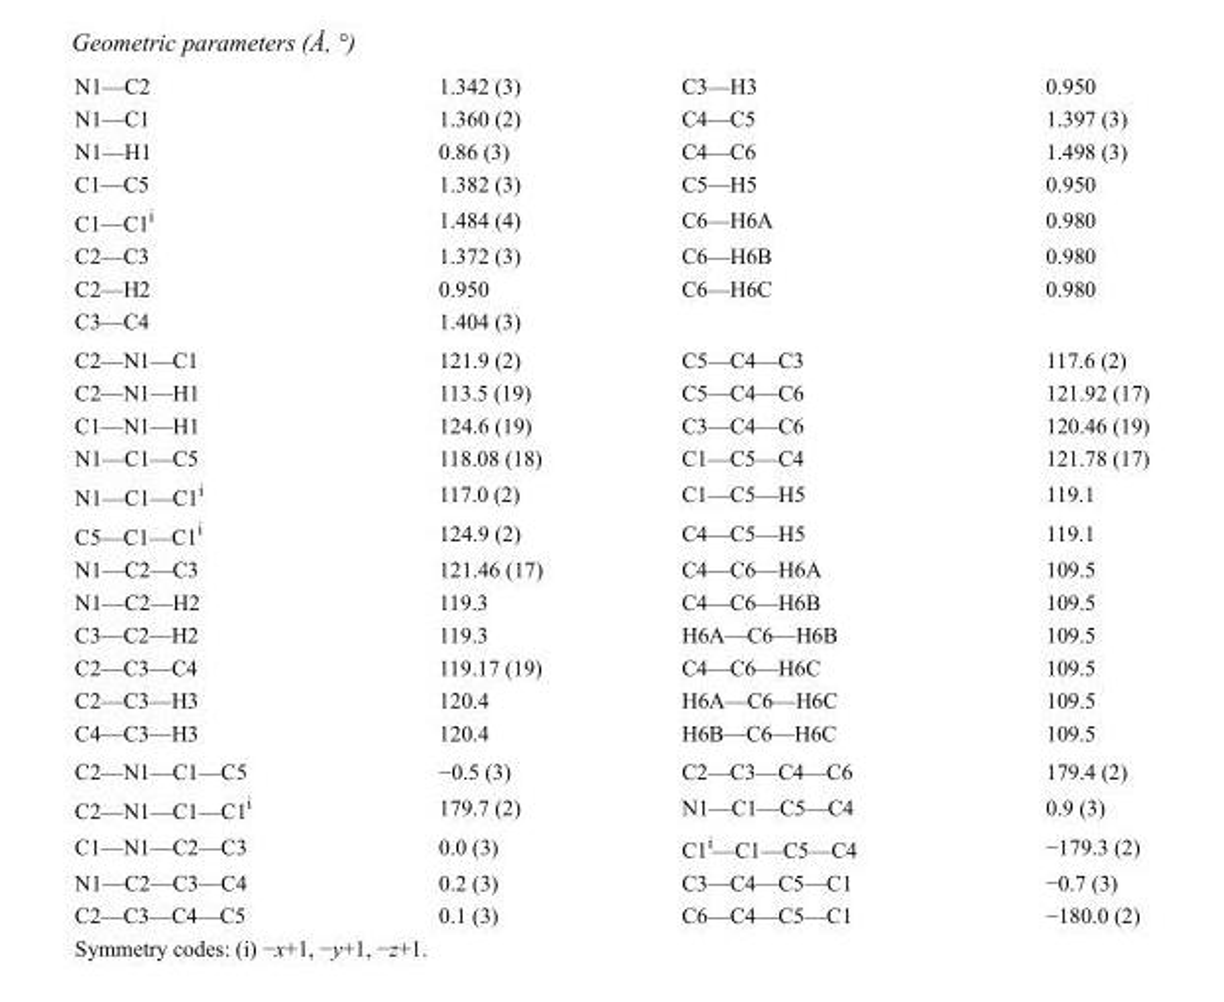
<table><tbody><tr><td>N1—C2</td><td>1.342 (3)</td><td>C3—H3</td><td>0.950</td></tr><tr><td>N1—C1</td><td>1.360 (2)</td><td>C4—C5</td><td>1.397 (3)</td></tr><tr><td>N1—H1</td><td>0.86 (3)</td><td>C4—C6</td><td>1.498 (3)</td></tr><tr><td>C1—C5</td><td>1.382 (3)</td><td>C5—H5</td><td>0.950</td></tr><tr><td>C1—C1<sup>i</sup></td><td>1.484 (4)</td><td>C6—H6A</td><td>0.980</td></tr><tr><td>C2—C3</td><td>1.372 (3)</td><td>C6—H6B</td><td>0.980</td></tr><tr><td>C2—H2</td><td>0.950</td><td>C6—H6C</td><td>0.980</td></tr><tr><td>C3—C4</td><td>1.404 (3)</td><td></td><td></td></tr><tr><td>C2—N1—C1</td><td>121.9 (2)</td><td>C5—C4—C3</td><td>117.6 (2)</td></tr><tr><td>C2—N1—H1</td><td>113.5 (19)</td><td>C5—C4—C6</td><td>121.92 (17)</td></tr><tr><td>C1—N1—H1</td><td>124.6 (19)</td><td>C3—C4—C6</td><td>120.46 (19)</td></tr><tr><td>N1—C1—C5</td><td>118.08 (18)</td><td>C1—C5—C4</td><td>121.78 (17)</td></tr><tr><td>N1—C1—C1<sup>i</sup></td><td>117.0 (2)</td><td>C1—C5—H5</td><td>119.1</td></tr><tr><td>C5—C1—C1<sup>i</sup></td><td>124.9 (2)</td><td>C4—C5—H5</td><td>119.1</td></tr><tr><td>N1—C2—C3</td><td>121.46 (17)</td><td>C4—C6—H6A</td><td>109.5</td></tr><tr><td>N1—C2—H2</td><td>119.3</td><td>C4—C6—H6B</td><td>109.5</td></tr><tr><td>C3—C2—H2</td><td>119.3</td><td>H6A—C6—H6B</td><td>109.5</td></tr><tr><td>C2—C3—C4</td><td>119.17 (19)</td><td>C4—C6—H6C</td><td>109.5</td></tr><tr><td>C2—C3—H3</td><td>120.4</td><td>H6A—C6—H6C</td><td>109.5</td></tr><tr><td>C4—C3—H3</td><td>120.4</td><td>H6B—C6—H6C</td><td>109.5</td></tr><tr><td>C2—N1—C1—C5</td><td>−0.5 (3)</td><td>C2—C3—C4—C6</td><td>179.4 (2)</td></tr><tr><td>C2—N1—C1—C1<sup>i</sup></td><td>179.7 (2)</td><td>N1—C1—C5—C4</td><td>0.9 (3)</td></tr><tr><td>C1—N1—C2—C3</td><td>0.0 (3)</td><td>C1<sup>i</sup>—C1—C5—C4</td><td>−179.3 (2)</td></tr><tr><td>N1—C2—C3—C4</td><td>0.2 (3)</td><td>C3—C4—C5—C1</td><td>−0.7 (3)</td></tr><tr><td>C2—C3—C4—C5</td><td>0.1 (3)</td><td>C6—C4—C5—C1</td><td>−180.0 (2)</td></tr></tbody></table>